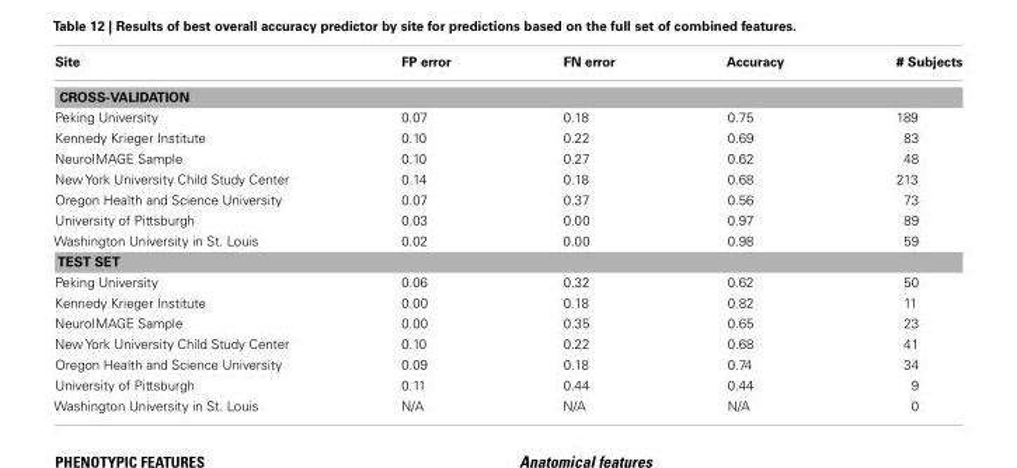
<table><tbody><tr><td>Site</td><td>FP error</td><td>FN error</td><td>Accuracy</td><td># Subjects</td></tr><tr><td colspan="5">CROSS-VALIDATION</td></tr><tr><td>Peking University</td><td>0.07</td><td>0.18</td><td>0.75</td><td>189</td></tr><tr><td>Kennedy Krieger Institute</td><td>0.10</td><td>0.22</td><td>0.69</td><td>83</td></tr><tr><td>NeuroIMAGE Sample</td><td>0.10</td><td>0.27</td><td>0.62</td><td>48</td></tr><tr><td>New York University Child Study Center</td><td>0.14</td><td>0.18</td><td>0.68</td><td>213</td></tr><tr><td>Oregon Health and Science University</td><td>0.07</td><td>0.37</td><td>0.56</td><td>73</td></tr><tr><td>University of Pittsburgh</td><td>0.03</td><td>0.00</td><td>0.97</td><td>89</td></tr><tr><td>Washington University in St. Louis</td><td>0.02</td><td>0.00</td><td>0.98</td><td>59</td></tr><tr><td colspan="5">TEST SET</td></tr><tr><td>Peking University</td><td>0.06</td><td>0.32</td><td>0.62</td><td>50</td></tr><tr><td>Kennedy Krieger Institute</td><td>0.00</td><td>0.18</td><td>0.82</td><td>11</td></tr><tr><td>NeuroIMAGE Sample</td><td>0.00</td><td>0.35</td><td>0.65</td><td>23</td></tr><tr><td>New York University Child Study Center</td><td>0.10</td><td>0.22</td><td>0.68</td><td>41</td></tr><tr><td>Oregon Health and Science University</td><td>0.09</td><td>0.18</td><td>0.74</td><td>34</td></tr><tr><td>University of Pittsburgh</td><td>0.11</td><td>0.44</td><td>0.44</td><td>9</td></tr><tr><td>Washington University in St. Louis</td><td>N/A</td><td>N/A</td><td>N/A</td><td>0</td></tr></tbody></table>